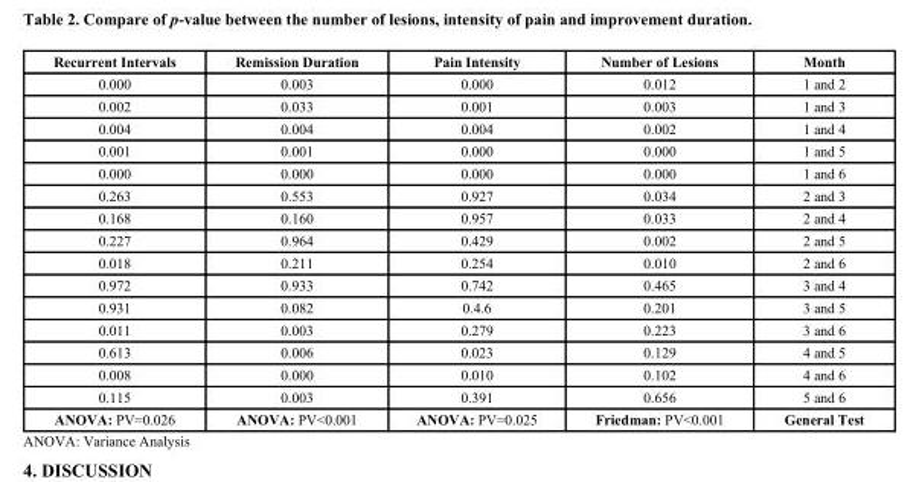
<table><thead><tr><td>Recurrent Intervals</td><td>Remission Duration</td><td>Pain Intensity</td><td>Number of Lesions</td><td>Month</td></tr></thead><tbody><tr><td>0.000</td><td>0.003</td><td>0.000</td><td>0.012</td><td>1 and 2</td></tr><tr><td>0.002</td><td>0.033</td><td>0.001</td><td>0.003</td><td>1 and 3</td></tr><tr><td>0.004</td><td>0.004</td><td>0.004</td><td>0.002</td><td>1 and 4</td></tr><tr><td>0.001</td><td>0.001</td><td>0.000</td><td>0.000</td><td>1 and 5</td></tr><tr><td>0.000</td><td>0.000</td><td>0.000</td><td>0.000</td><td>1 and 6</td></tr><tr><td>0.263</td><td>0.553</td><td>0.927</td><td>0.034</td><td>2 and 3</td></tr><tr><td>0.168</td><td>0.160</td><td>0.957</td><td>0.033</td><td>2 and 4</td></tr><tr><td>0.227</td><td>0.964</td><td>0.429</td><td>0.002</td><td>2 and 5</td></tr><tr><td>0.018</td><td>0.211</td><td>0.254</td><td>0.010</td><td>2 and 6</td></tr><tr><td>0.972</td><td>0.933</td><td>0.742</td><td>0.465</td><td>3 and 4</td></tr><tr><td>0.931</td><td>0.082</td><td>0.4.6</td><td>0.201</td><td>3 and 5</td></tr><tr><td>0.011</td><td>0.003</td><td>0.279</td><td>0.223</td><td>3 and 6</td></tr><tr><td>0.613</td><td>0.006</td><td>0.023</td><td>0.129</td><td>4 and 5</td></tr><tr><td>0.008</td><td>0.000</td><td>0.010</td><td>0.102</td><td>4 and 6</td></tr><tr><td>0.115</td><td>0.003</td><td>0.391</td><td>0.656</td><td>5 and 6</td></tr><tr><td>ANOVA: PV=0.026</td><td>ANOVA: PV&lt;0.001</td><td>ANOVA: PV=0.025</td><td>Friedman: PV&lt;0.001</td><td>General Test</td></tr></tbody></table>